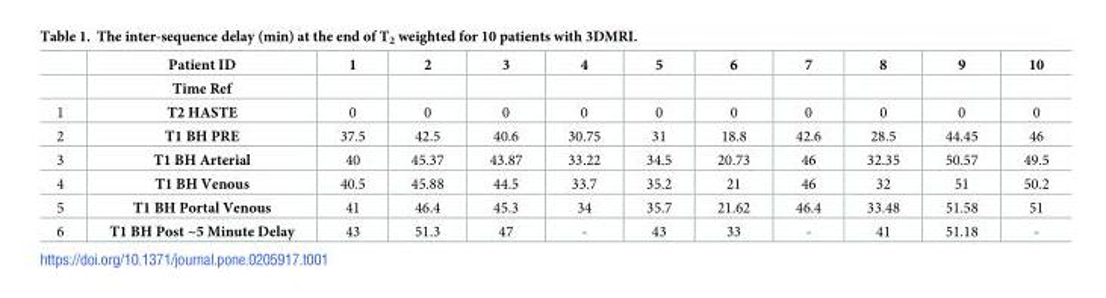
<table><thead><tr><td rowspan="2"></td><td rowspan="2">Patient ID Time Ref</td><td rowspan="2">1</td><td rowspan="2">2</td><td rowspan="2">3</td><td rowspan="2">4</td><td rowspan="2">5</td><td rowspan="2">6</td><td rowspan="2">7</td><td rowspan="2">8</td><td rowspan="2">9</td><td rowspan="2">10</td></tr><tr></tr></thead><tbody><tr><td>1</td><td>T2 HASTE</td><td>0</td><td>0</td><td>0</td><td>0</td><td>0</td><td>0</td><td>0</td><td>0</td><td>0</td><td>0</td></tr><tr><td>2</td><td>T1 BH PRE</td><td>37.5</td><td>42.5</td><td>40.6</td><td>30.75</td><td>31</td><td>18.8</td><td>42.6</td><td>28.5</td><td>44.45</td><td>46</td></tr><tr><td>3</td><td>T1 BH Arterial</td><td>40</td><td>45.37</td><td>43.87</td><td>33.22</td><td>34.5</td><td>20.73</td><td>46</td><td>32.35</td><td>50.57</td><td>49.5</td></tr><tr><td>4</td><td>T1 BH Venous</td><td>40.5</td><td>45.88</td><td>44.5</td><td>33.7</td><td>35.2</td><td>21</td><td>46</td><td>32</td><td>51</td><td>50.2</td></tr><tr><td>5</td><td>T1 BH Portal Venous</td><td>41</td><td>46.4</td><td>45.3</td><td>34</td><td>35.7</td><td>21.62</td><td>46.4</td><td>33.48</td><td>51.58</td><td>51</td></tr><tr><td>6</td><td>T1 BH Post ~5 Minute Delay</td><td>43</td><td>51.3</td><td>47</td><td>-</td><td>43</td><td>33</td><td>-</td><td>41</td><td>51.18</td><td>-</td></tr></tbody></table>